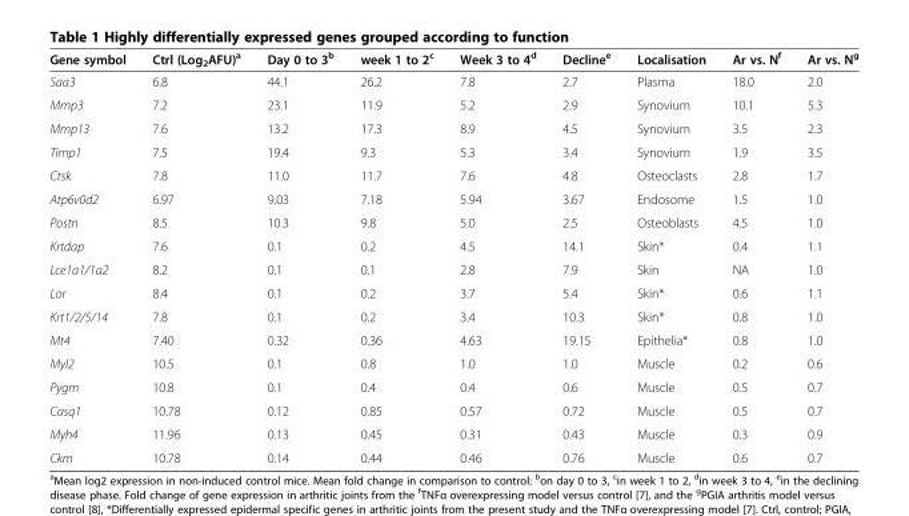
<table><thead><tr><td>Gene symbol</td><td>Ctrl (Log<sub>2</sub>AFU)<sup>a</sup></td><td>Day 0 to 3<sup>b</sup></td><td>week 1 to 2<sup>c</sup></td><td>Week 3 to 4<sup>d</sup></td><td>Decline<sup>e</sup></td><td>Localisation</td><td>Ar vs. N<sup>f</sup></td><td>Ar vs. N<sup>g</sup></td></tr></thead><tbody><tr><td>Saa3</td><td>6.8</td><td>44.1</td><td>26.2</td><td>7.8</td><td>2.7</td><td>Plasma</td><td>18.0</td><td>2.0</td></tr><tr><td>Mmp3</td><td>7.2</td><td>23.1</td><td>11.9</td><td>5.2</td><td>2.9</td><td>Synovium</td><td>10.1</td><td>5.3</td></tr><tr><td>Mmp13</td><td>7.6</td><td>13.2</td><td>17.3</td><td>8.9</td><td>4.5</td><td>Synovium</td><td>3.5</td><td>2.3</td></tr><tr><td>Timp1</td><td>7.5</td><td>19.4</td><td>9.3</td><td>5.3</td><td>3.4</td><td>Synovium</td><td>1.9</td><td>3.5</td></tr><tr><td>Ctsk</td><td>7.8</td><td>11.0</td><td>11.7</td><td>7.6</td><td>4.8</td><td>Osteoclasts</td><td>2.8</td><td>1.7</td></tr><tr><td>Atp6v0d2</td><td>6.97</td><td>9.03</td><td>7.18</td><td>5.94</td><td>3.67</td><td>Endosome</td><td>1.5</td><td>1.0</td></tr><tr><td>Postn</td><td>8.5</td><td>10.3</td><td>9.8</td><td>5.0</td><td>2.5</td><td>Osteoblasts</td><td>4.5</td><td>1.0</td></tr><tr><td>Krtdap</td><td>7.6</td><td>0.1</td><td>0.2</td><td>4.5</td><td>14.1</td><td>Skin*</td><td>0.4</td><td>1.1</td></tr><tr><td>Lce1a1/1a2</td><td>8.2</td><td>0.1</td><td>0.1</td><td>2.8</td><td>7.9</td><td>Skin</td><td>NA</td><td>1.0</td></tr><tr><td>Lor</td><td>8.4</td><td>0.1</td><td>0.2</td><td>3.7</td><td>5.4</td><td>Skin*</td><td>0.6</td><td>1.1</td></tr><tr><td>Krt1/2/5/14</td><td>7.8</td><td>0.1</td><td>0.2</td><td>3.4</td><td>10.3</td><td>Skin*</td><td>0.8</td><td>1.0</td></tr><tr><td>Mt4</td><td>7.40</td><td>0.32</td><td>0.36</td><td>4.63</td><td>19.15</td><td>Epithelia*</td><td>0.8</td><td>1.0</td></tr><tr><td>Myl2</td><td>10.5</td><td>0.1</td><td>0.8</td><td>1.0</td><td>1.0</td><td>Muscle</td><td>0.2</td><td>0.6</td></tr><tr><td>Pygm</td><td>10.8</td><td>0.1</td><td>0.4</td><td>0.4</td><td>0.6</td><td>Muscle</td><td>0.5</td><td>0.7</td></tr><tr><td>Casq1</td><td>10.78</td><td>0.12</td><td>0.85</td><td>0.57</td><td>0.72</td><td>Muscle</td><td>0.5</td><td>0.7</td></tr><tr><td>Myh4</td><td>11.96</td><td>0.13</td><td>0.45</td><td>0.31</td><td>0.43</td><td>Muscle</td><td>0.3</td><td>0.9</td></tr><tr><td>Ckm</td><td>10.78</td><td>0.14</td><td>0.44</td><td>0.46</td><td>0.76</td><td>Muscle</td><td>0.6</td><td>0.7</td></tr></tbody></table>